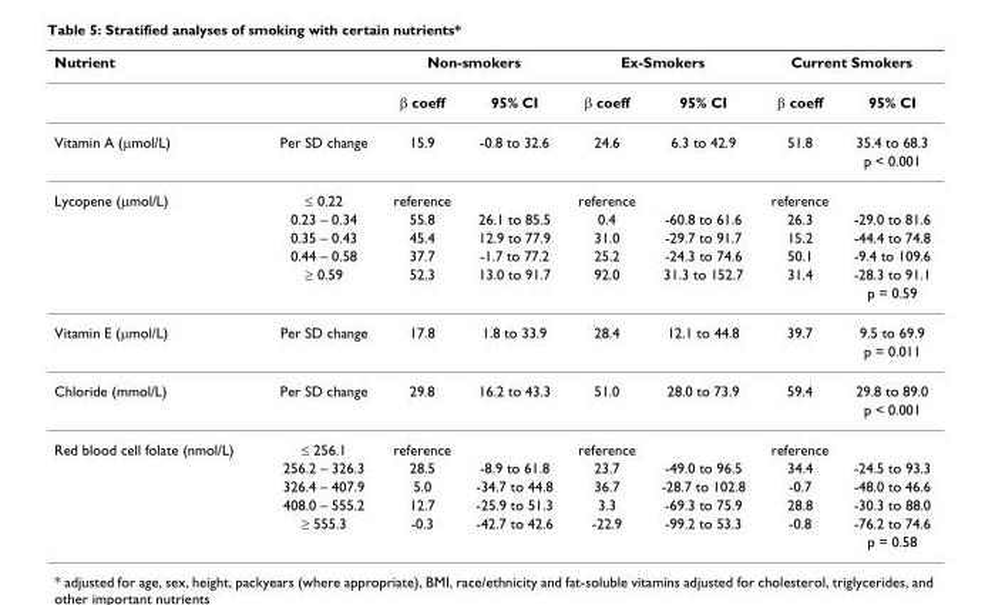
<table><thead><tr><td rowspan="2">Nutrient</td><td rowspan="2"></td><td colspan="2">Non-smokers</td><td colspan="2">Ex-Smokers</td><td colspan="2">Current Smokers</td></tr><tr><td>β coeff</td><td>95% CI</td><td>β coeff</td><td>95% CI</td><td>β coeff</td><td>95% CI</td></tr></thead><tbody><tr><td rowspan="2">Vitamin A (μmol/L)</td><td>Per SD change</td><td>15.9</td><td>-0.8 to 32.6</td><td>24.6</td><td>6.3 to 42.9</td><td>51.8</td><td>35.4 to 68.3</td></tr><tr><td></td><td></td><td></td><td></td><td></td><td></td><td>p &lt; 0.001</td></tr><tr><td rowspan="6">Lycopene (μmol/L)</td><td>≤ 0.22</td><td>reference</td><td></td><td>reference</td><td></td><td>reference</td><td></td></tr><tr><td>0.23 – 0.34</td><td>55.8</td><td>26.1 to 85.5</td><td>0.4</td><td>-60.8 to 61.6</td><td>26.3</td><td>-29.0 to 81.6</td></tr><tr><td>0.35 – 0.43</td><td>45.4</td><td>12.9 to 77.9</td><td>31.0</td><td>-29.7 to 91.7</td><td>15.2</td><td>-44.4 to 74.8</td></tr><tr><td>0.44 – 0.58</td><td>37.7</td><td>-1.7 to 77.2</td><td>25.2</td><td>-24.3 to 74.6</td><td>50.1</td><td>-9.4 to 109.6</td></tr><tr><td>≥ 0.59</td><td>52.3</td><td>13.0 to 91.7</td><td>92.0</td><td>31.3 to 152.7</td><td>31.4</td><td>-28.3 to 91.1</td></tr><tr><td></td><td></td><td></td><td></td><td></td><td></td><td>p = 0.59</td></tr><tr><td rowspan="2">Vitamin E (μmol/L)</td><td>Per SD change</td><td>17.8</td><td>1.8 to 33.9</td><td>28.4</td><td>12.1 to 44.8</td><td>39.7</td><td>9.5 to 69.9</td></tr><tr><td></td><td></td><td></td><td></td><td></td><td></td><td>p = 0.011</td></tr><tr><td rowspan="2">Chloride (mmol/L)</td><td>Per SD change</td><td>29.8</td><td>16.2 to 43.3</td><td>51.0</td><td>28.0 to 73.9</td><td>59.4</td><td>29.8 to 89.0</td></tr><tr><td></td><td></td><td></td><td></td><td></td><td></td><td>p &lt; 0.001</td></tr><tr><td rowspan="6">Red blood cell folate (nmol/L)</td><td>≤ 256.1</td><td>reference</td><td></td><td>reference</td><td></td><td>reference</td><td></td></tr><tr><td>256.2 – 326.3</td><td>28.5</td><td>-8.9 to 61.8</td><td>23.7</td><td>-49.0 to 96.5</td><td>34.4</td><td>-24.5 to 93.3</td></tr><tr><td>326.4 – 407.9</td><td>5.0</td><td>-34.7 to 44.8</td><td>36.7</td><td>-28.7 to 102.8</td><td>-0.7</td><td>-48.0 to 46.6</td></tr><tr><td>408.0 – 555.2</td><td>12.7</td><td>-25.9 to 51.3</td><td>3.3</td><td>-69.3 to 75.9</td><td>28.8</td><td>-30.3 to 88.0</td></tr><tr><td>≥ 555.3</td><td>-0.3</td><td>-42.7 to 42.6</td><td>-22.9</td><td>-99.2 to 53.3</td><td>-0.8</td><td>-76.2 to 74.6</td></tr><tr><td></td><td></td><td></td><td></td><td></td><td></td><td>p = 0.58</td></tr></tbody></table>